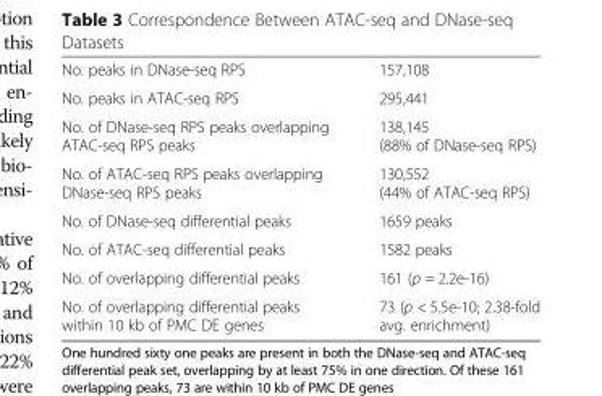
<table><tbody><tr><td>No. peaks in DNase-seq RPS</td><td>157,108</td></tr><tr><td>No. peaks in ATAC-seq RPS</td><td>295,441</td></tr><tr><td>No. of DNase-seq RPS peaks overlapping ATAC-seq RPS peaks</td><td>138,145 (88% of DNase-seq RPS)</td></tr><tr><td>No. of ATAC-seq RPS peaks overlapping DNase-seq RPS peaks</td><td>130,552 (44% of ATAC-seq RPS)</td></tr><tr><td>No. of DNase-seq differential peaks</td><td>1659 peaks</td></tr><tr><td>No. of ATAC-seq differential peaks</td><td>1582 peaks</td></tr><tr><td>No. of overlapping differential peaks</td><td>161 (p = 2.2e-16)</td></tr><tr><td>No. of overlapping differential peaks within 10 kb of PMC DE genes</td><td>73 (p &lt; 5.5e-10; 2.38-fold avg. enrichment)</td></tr></tbody></table>